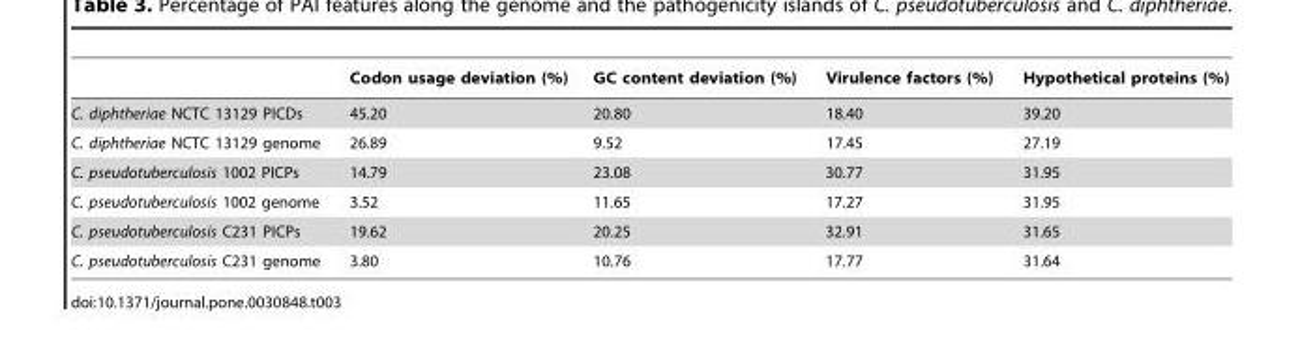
<table><thead><tr><td></td><td>Codon usage deviation (%)</td><td>GC content deviation (%)</td><td>Virulence factors (%)</td><td>Hypothetical proteins (%)</td></tr></thead><tbody><tr><td>C. diphtheriae NCTC 13129 PICDs</td><td>45.20</td><td>20.80</td><td>18.40</td><td>39.20</td></tr><tr><td>C. diphtheriae NCTC 13129 genome</td><td>26.89</td><td>9.52</td><td>17.45</td><td>27.19</td></tr><tr><td>C. pseudotuberculosis 1002 PICPs</td><td>14.79</td><td>23.08</td><td>30.77</td><td>31.95</td></tr><tr><td>C. pseudotuberculosis 1002 genome</td><td>3.52</td><td>11.65</td><td>17.27</td><td>31.95</td></tr><tr><td>C. pseudotuberculosis C231 PICPs</td><td>19.62</td><td>20.25</td><td>32.91</td><td>31.65</td></tr><tr><td>C. pseudotuberculosis C231 genome</td><td>3.80</td><td>10.76</td><td>17.77</td><td>31.64</td></tr></tbody></table>